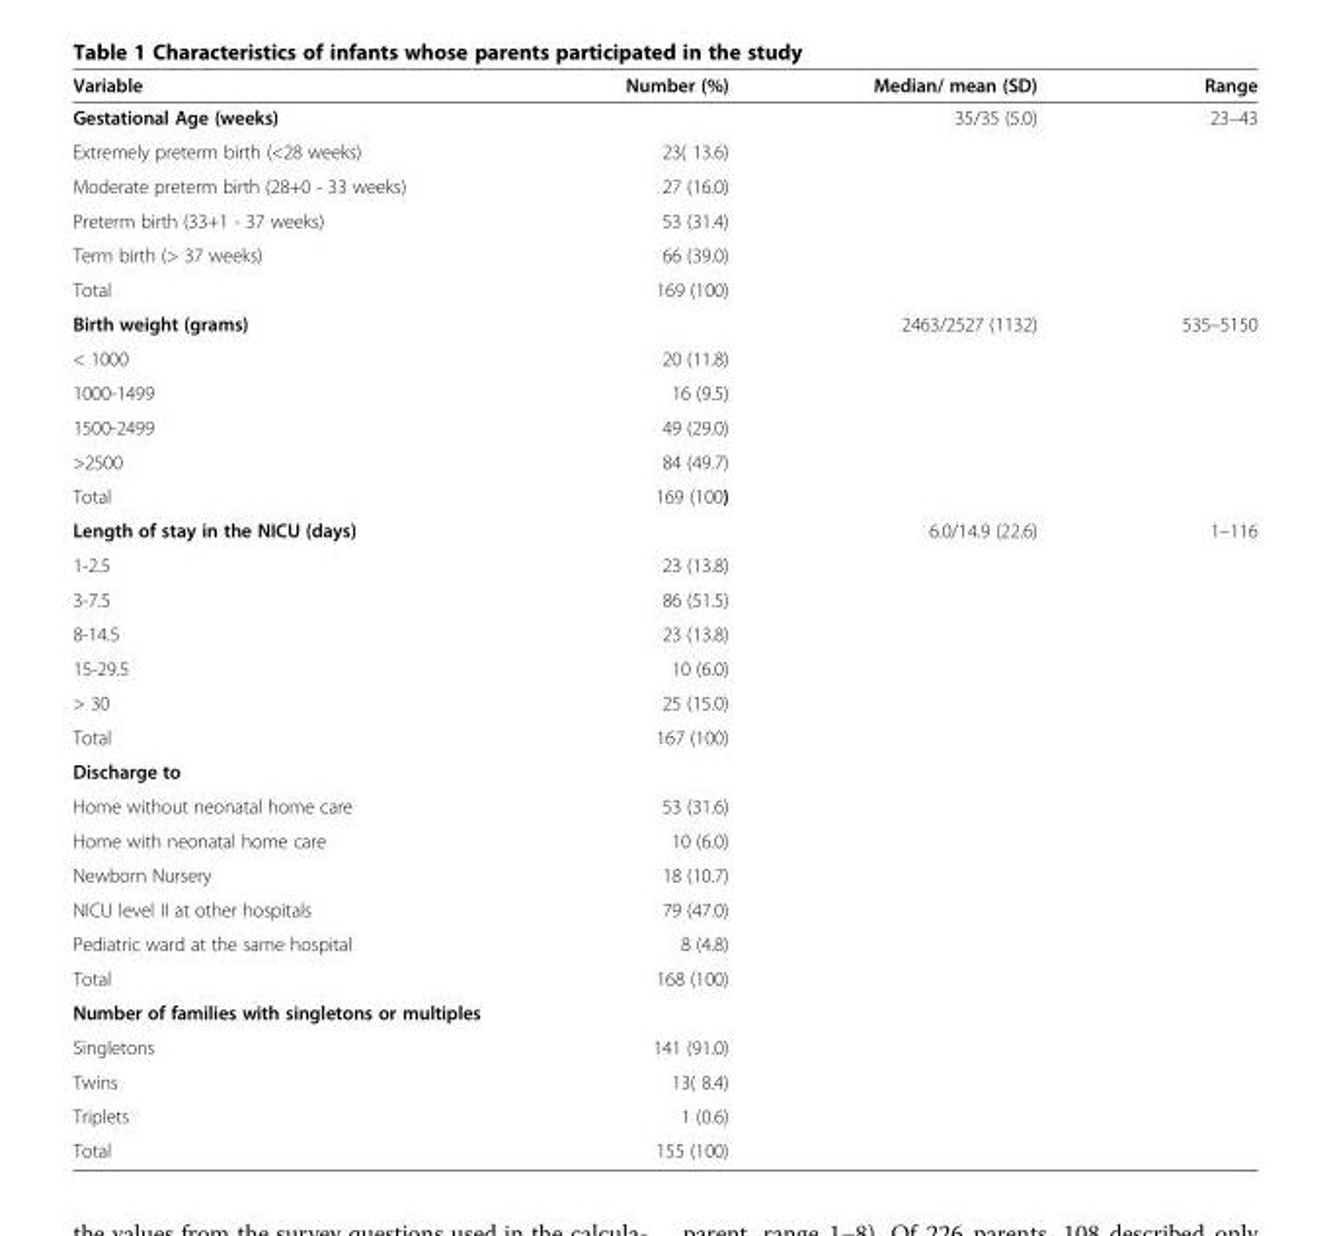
<table><thead><tr><td>Variable</td><td>Number (%)</td><td>Median/ mean (SD)</td><td>Range</td></tr></thead><tbody><tr><td colspan="2">Gestational Age (weeks)</td><td rowspan="6">35/35 (5.0)</td><td rowspan="6">23–43</td></tr><tr><td>Extremely preterm birth (&lt;28 weeks)</td><td>23( 13.6)</td></tr><tr><td>Moderate preterm birth (28+0 - 33 weeks)</td><td>27 (16.0)</td></tr><tr><td>Preterm birth (33+1 - 37 weeks)</td><td>53 (31.4)</td></tr><tr><td>Term birth (&gt; 37 weeks)</td><td>66 (39.0)</td></tr><tr><td>Total</td><td>169 (100)</td></tr><tr><td colspan="2">Birth weight (grams)</td><td rowspan="6">2463/2527 (1132)</td><td rowspan="6">535–5150</td></tr><tr><td>&lt; 1000</td><td>20 (11.8)</td></tr><tr><td>1000-1499</td><td>16 (9.5)</td></tr><tr><td>1500-2499</td><td>49 (29.0)</td></tr><tr><td>&gt;2500</td><td>84 (49.7)</td></tr><tr><td>Total</td><td>169 (100)</td></tr><tr><td colspan="2">Length of stay in the NICU (days)</td><td rowspan="7">6.0/14.9 (22.6)</td><td rowspan="7">1–116</td></tr><tr><td>1-2.5</td><td>23 (13.8)</td></tr><tr><td>3-7.5</td><td>86 (51.5)</td></tr><tr><td>8-14.5</td><td>23 (13.8)</td></tr><tr><td>15-29.5</td><td>10 (6.0)</td></tr><tr><td>&gt; 30</td><td>25 (15.0)</td></tr><tr><td>Total</td><td>167 (100)</td></tr><tr><td colspan="4">Discharge to</td></tr><tr><td>Home without neonatal home care</td><td>53 (31.6)</td><td></td><td></td></tr><tr><td>Home with neonatal home care</td><td>10 (6.0)</td><td></td><td></td></tr><tr><td>Newborn Nursery</td><td>18 (10.7)</td><td></td><td></td></tr><tr><td>NICU level II at other hospitals</td><td>79 (47.0)</td><td></td><td></td></tr><tr><td>Pediatric ward at the same hospital</td><td>8 (4.8)</td><td></td><td></td></tr><tr><td>Total</td><td>168 (100)</td><td></td><td></td></tr><tr><td colspan="4">Number of families with singletons or multiples</td></tr><tr><td>Singletons</td><td>141 (91.0)</td><td></td><td></td></tr><tr><td>Twins</td><td>13( 8.4)</td><td></td><td></td></tr><tr><td>Triplets</td><td>1 (0.6)</td><td></td><td></td></tr><tr><td>Total</td><td>155 (100)</td><td></td><td></td></tr></tbody></table>